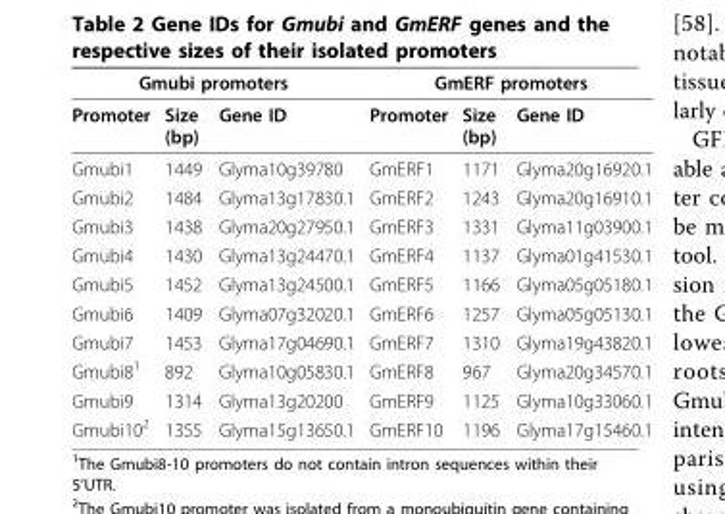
<table><thead><tr><td colspan="3">Gmubi promoters</td><td colspan="3">GmERF promoters</td></tr><tr><td>Promoter</td><td>Size (bp)</td><td>Gene ID</td><td>Promoter</td><td>Size (bp)</td><td>Gene ID</td></tr></thead><tbody><tr><td>Gmubi1</td><td>1449</td><td>Glyma10g39780</td><td>GmERF1</td><td>1171</td><td>Glyma20g16920.1</td></tr><tr><td>Gmubi2</td><td>1484</td><td>Glyma13g17830.1</td><td>GmERF2</td><td>1243</td><td>Glyma20g16910.1</td></tr><tr><td>Gmubi3</td><td>1438</td><td>Glyma20g27950.1</td><td>GmERF3</td><td>1331</td><td>Glyma11g03900.1</td></tr><tr><td>Gmubi4</td><td>1430</td><td>Glyma13g24470.1</td><td>GmERF4</td><td>1137</td><td>Glyma01g41530.1</td></tr><tr><td>Gmubi5</td><td>1452</td><td>Glyma13g24500.1</td><td>GmERF5</td><td>1166</td><td>Glyma05g05180.1</td></tr><tr><td>Gmubi6</td><td>1409</td><td>Glyma07g32020.1</td><td>GmERF6</td><td>1257</td><td>Glyma05g05130.1</td></tr><tr><td>Gmubi7</td><td>1453</td><td>Glyma17g04690.1</td><td>GmERF7</td><td>1310</td><td>Glyma19g43820.1</td></tr><tr><td>Gmubi8<sup>1</sup></td><td>892</td><td>Glyma10g05830.1</td><td>GmERF8</td><td>967</td><td>Glyma20g34570.1</td></tr><tr><td>Gmubi9</td><td>1314</td><td>Glyma13g20200</td><td>GmERF9</td><td>1125</td><td>Glyma10g33060.1</td></tr><tr><td>Gmubi10<sup>2</sup></td><td>1355</td><td>Glyma15g13650.1</td><td>GmERF10</td><td>1196</td><td>Glyma17g15460.1</td></tr></tbody></table>